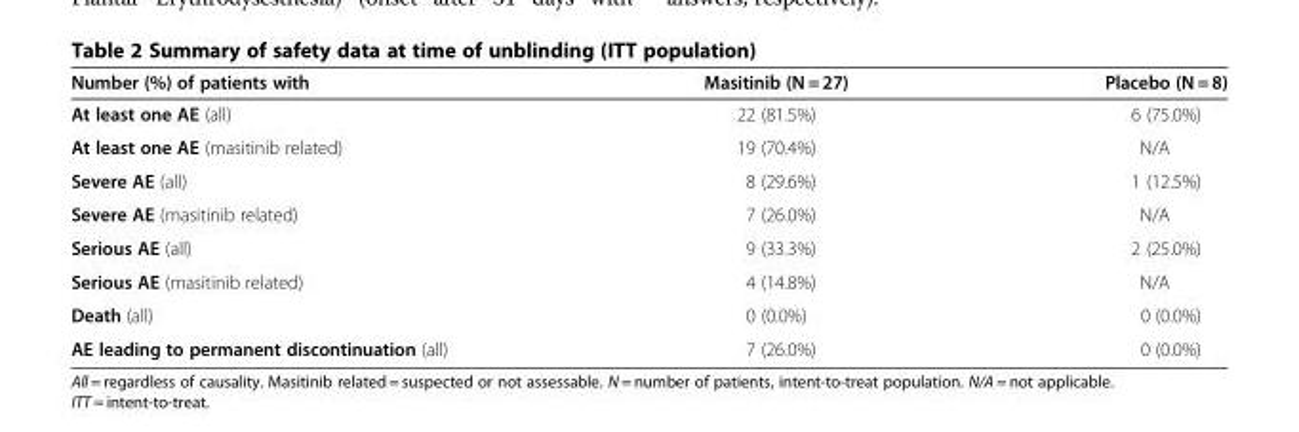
<table><thead><tr><td>Number (%) of patients with</td><td>Masitinib (N = 27)</td><td>Placebo (N = 8)</td></tr></thead><tbody><tr><td>At least one AE (all)</td><td>22 (81.5%)</td><td>6 (75.0%)</td></tr><tr><td>At least one AE (masitinib related)</td><td>19 (70.4%)</td><td>N/A</td></tr><tr><td>Severe AE (all)</td><td>8 (29.6%)</td><td>1 (12.5%)</td></tr><tr><td>Severe AE (masitinib related)</td><td>7 (26.0%)</td><td>N/A</td></tr><tr><td>Serious AE (all)</td><td>9 (33.3%)</td><td>2 (25.0%)</td></tr><tr><td>Serious AE (masitinib related)</td><td>4 (14.8%)</td><td>N/A</td></tr><tr><td>Death (all)</td><td>0 (0.0%)</td><td>0 (0.0%)</td></tr><tr><td>AE leading to permanent discontinuation (all)</td><td>7 (26.0%)</td><td>0 (0.0%)</td></tr></tbody></table>